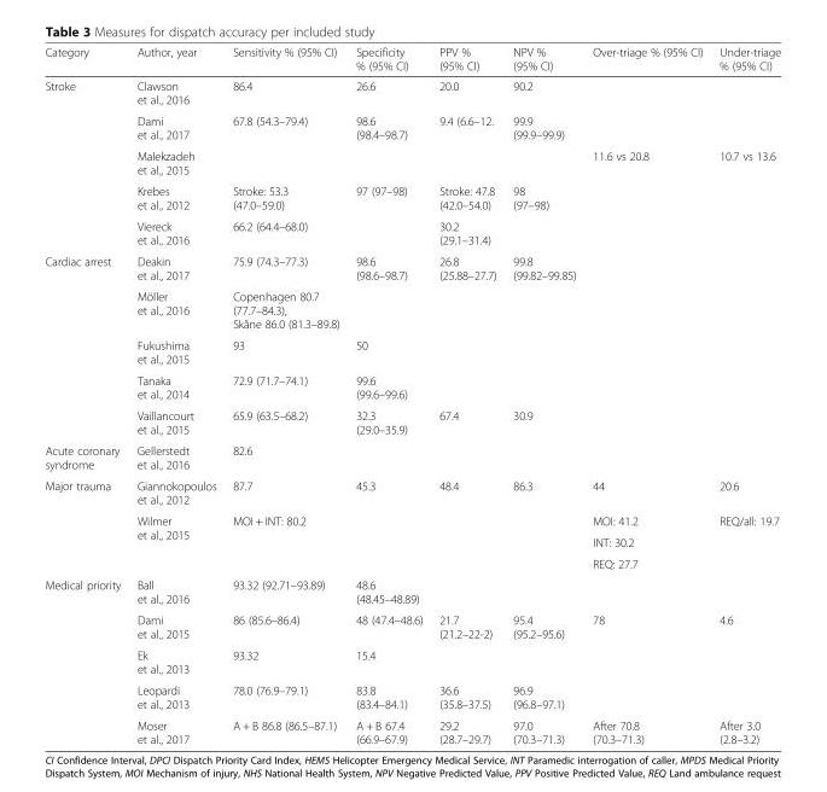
<table><thead><tr><td>Category</td><td>Author, year</td><td>Sensitivity % (95% CI)</td><td>Specificity % (95% CI)</td><td>PPV % (95% CI)</td><td>NPV % (95% CI)</td><td>Over-triage % (95% CI)</td><td>Under-triage % (95% CI)</td></tr></thead><tbody><tr><td rowspan="5">Stroke</td><td>Clawson et al., 2016</td><td>86.4</td><td>26.6</td><td>20.0</td><td>90.2</td><td></td><td></td></tr><tr><td>Dami et al., 2017</td><td>67.8 (54.3–79.4)</td><td>98.6 (98.4–98.7)</td><td>9.4 (6.6–12.</td><td>99.9 (99.9–99.9)</td><td></td><td></td></tr><tr><td>Malekzadeh et al., 2015</td><td></td><td></td><td></td><td></td><td>11.6 vs 20.8</td><td>10.7 vs 13.6</td></tr><tr><td>Krebes et al., 2012</td><td>Stroke: 53.3 (47.0–59.0)</td><td>97 (97–98)</td><td>Stroke: 47.8 (42.0–54.0)</td><td>98 (97–98)</td><td></td><td></td></tr><tr><td>Viereck et al., 2016</td><td>66.2 (64.4–68.0)</td><td></td><td>30.2 (29.1–31.4)</td><td></td><td></td><td></td></tr><tr><td rowspan="5">Cardiac arrest</td><td>Deakin et al., 2017</td><td>75.9 (74.3–77.3)</td><td>98.6 (98.6–98.7)</td><td>26.8 (25.88–27.7)</td><td>99.8 (99.82–99.85)</td><td></td><td></td></tr><tr><td>Möller et al., 2016</td><td>Copenhagen 80.7 (77.7–84.3), Skåne 86.0 (81.3–89.8)</td><td></td><td></td><td></td><td></td><td></td></tr><tr><td>Fukushima et al., 2015</td><td>93</td><td>50</td><td></td><td></td><td></td><td></td></tr><tr><td>Tanaka et al., 2014</td><td>72.9 (71.7–74.1)</td><td>99.6 (99.6–99.6)</td><td></td><td></td><td></td><td></td></tr><tr><td>Vaillancourt et al., 2015</td><td>65.9 (63.5–68.2)</td><td>32.3 (29.0–35.9)</td><td>67.4</td><td>30.9</td><td></td><td></td></tr><tr><td>Acute coronary syndrome</td><td>Gellerstedt et al., 2016</td><td>82.6</td><td></td><td></td><td></td><td></td><td></td></tr><tr><td rowspan="4">Major trauma</td><td>Giannokopoulos et al., 2012</td><td>87.7</td><td>45.3</td><td>48.4</td><td>86.3</td><td>44</td><td>20.6</td></tr><tr><td rowspan="3">Wilmer et al., 2015</td><td rowspan="3">MOI + INT: 80.2</td><td rowspan="3"></td><td rowspan="3"></td><td rowspan="3"></td><td>MOI: 41.2</td><td rowspan="3">REQ/all: 19.7</td></tr><tr><td>INT: 30.2</td></tr><tr><td>REQ: 27.7</td></tr><tr><td rowspan="5">Medical priority</td><td>Ball et al., 2016</td><td>93.32 (92.71–93.89)</td><td>48.6 (48.45–48.89)</td><td></td><td></td><td></td><td></td></tr><tr><td>Dami et al., 2015</td><td>86 (85.6–86.4)</td><td>48 (47.4–48.6)</td><td>21.7 (21.2–22-2)</td><td>95.4 (95.2–95.6)</td><td>78</td><td>4.6</td></tr><tr><td>Ek et al., 2013</td><td>93.32</td><td>15.4</td><td></td><td></td><td></td><td></td></tr><tr><td>Leopardi et al., 2013</td><td>78.0 (76.9–79.1)</td><td>83.8 (83.4–84.1)</td><td>36.6 (35.8–37.5)</td><td>96.9 (96.8–97.1)</td><td></td><td></td></tr><tr><td>Moser et al., 2017</td><td>A + B 86.8 (86.5–87.1)</td><td>A + B 67.4 (66.9–67.9)</td><td>29.2 (28.7–29.7)</td><td>97.0 (70.3–71.3)</td><td>After 70.8 (70.3–71.3)</td><td>After 3.0 (2.8–3.2)</td></tr></tbody></table>